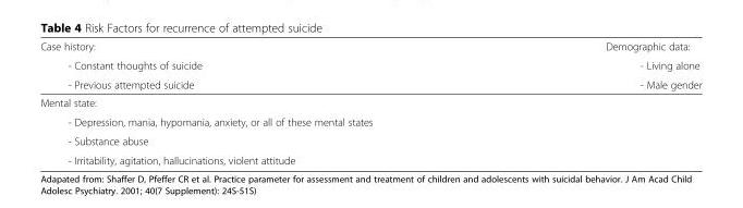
<table><tbody><tr><td>Case history:</td><td>Demographic data:</td></tr><tr><td>- Constant thoughts of suicide</td><td>- Living alone</td></tr><tr><td>- Previous attempted suicide</td><td>- Male gender</td></tr><tr><td colspan="2">Mental state:</td></tr><tr><td colspan="2">- Depression, mania, hypomania, anxiety, or all of these mental states</td></tr><tr><td colspan="2">- Substance abuse</td></tr><tr><td>- Irritability, agitation, hallucinations, violent attitude</td><td></td></tr></tbody></table>